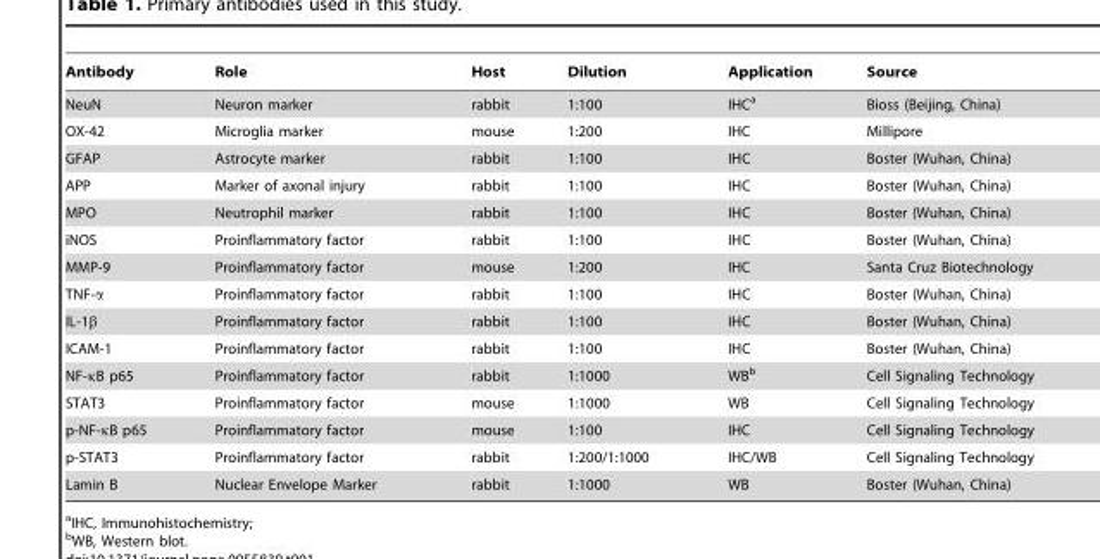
<table><thead><tr><td>Antibody</td><td>Role</td><td>Host</td><td>Dilution</td><td>Application</td><td>Source</td></tr></thead><tbody><tr><td>NeuN</td><td>Neuron marker</td><td>rabbit</td><td>1:100</td><td>IHC<sup>a</sup></td><td>Bioss (Beijing, China)</td></tr><tr><td>OX-42</td><td>Microglia marker</td><td>mouse</td><td>1:200</td><td>IHC</td><td>Millipore</td></tr><tr><td>GFAP</td><td>Astrocyte marker</td><td>rabbit</td><td>1:100</td><td>IHC</td><td>Boster (Wuhan, China)</td></tr><tr><td>APP</td><td>Marker of axonal injury</td><td>rabbit</td><td>1:100</td><td>IHC</td><td>Boster (Wuhan, China)</td></tr><tr><td>MPO</td><td>Neutrophil marker</td><td>rabbit</td><td>1:100</td><td>IHC</td><td>Boster (Wuhan, China)</td></tr><tr><td>iNOS</td><td>Proinflammatory factor</td><td>rabbit</td><td>1:100</td><td>IHC</td><td>Boster (Wuhan, China)</td></tr><tr><td>MMP-9</td><td>Proinflammatory factor</td><td>mouse</td><td>1:200</td><td>IHC</td><td>Santa Cruz Biotechnology</td></tr><tr><td>TNF-α</td><td>Proinflammatory factor</td><td>rabbit</td><td>1:100</td><td>IHC</td><td>Boster (Wuhan, China)</td></tr><tr><td>IL-1β</td><td>Proinflammatory factor</td><td>rabbit</td><td>1:100</td><td>IHC</td><td>Boster (Wuhan, China)</td></tr><tr><td>ICAM-1</td><td>Proinflammatory factor</td><td>rabbit</td><td>1:100</td><td>IHC</td><td>Boster (Wuhan, China)</td></tr><tr><td>NF-κB p65</td><td>Proinflammatory factor</td><td>rabbit</td><td>1:1000</td><td>WB<sup>b</sup></td><td>Cell Signaling Technology</td></tr><tr><td>STAT3</td><td>Proinflammatory factor</td><td>mouse</td><td>1:1000</td><td>WB</td><td>Cell Signaling Technology</td></tr><tr><td>p-NF-κB p65</td><td>Proinflammatory factor</td><td>mouse</td><td>1:100</td><td>IHC</td><td>Cell Signaling Technology</td></tr><tr><td>p-STAT3</td><td>Proinflammatory factor</td><td>rabbit</td><td>1:200/1:1000</td><td>IHC/WB</td><td>Cell Signaling Technology</td></tr><tr><td>Lamin B</td><td>Nuclear Envelope Marker</td><td>rabbit</td><td>1:1000</td><td>WB</td><td>Boster (Wuhan, China)</td></tr></tbody></table>